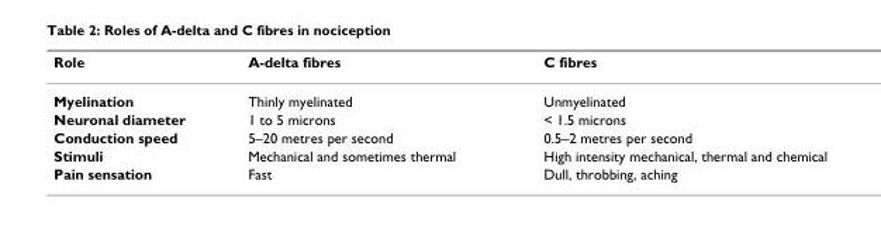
<table><thead><tr><td>Role</td><td>A-delta fibres</td><td>C fibres</td></tr></thead><tbody><tr><td>Myelination</td><td>Thinly myelinated</td><td>Unmyelinated</td></tr><tr><td>Neuronal diameter</td><td>1 to 5 microns</td><td>&lt; 1.5 microns</td></tr><tr><td>Conduction speed</td><td>5–20 metres per second</td><td>0.5–2 metres per second</td></tr><tr><td>Stimuli</td><td>Mechanical and sometimes thermal</td><td>High intensity mechanical, thermal and chemical</td></tr><tr><td>Pain sensation</td><td>Fast</td><td>Dull, throbbing, aching</td></tr></tbody></table>